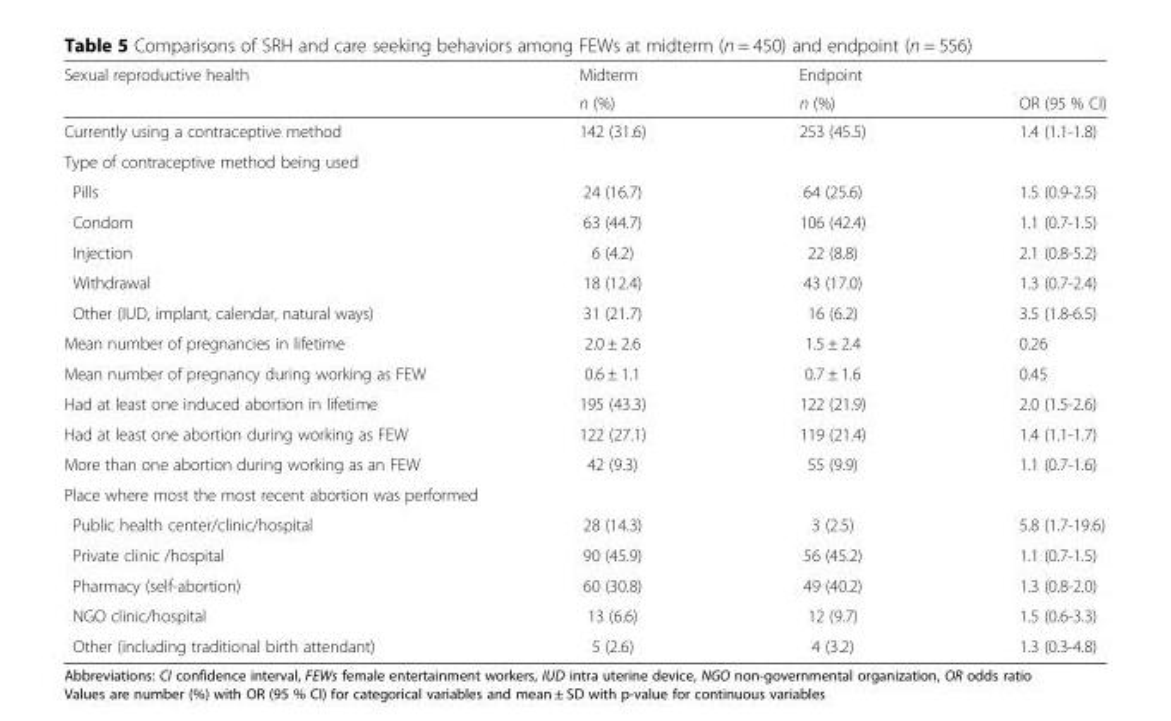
<table><thead><tr><td rowspan="2">Sexual reproductive health</td><td rowspan="2">Midterm n (%)</td><td rowspan="2">Endpoint n (%)</td><td rowspan="2">OR (95 % CI)</td></tr><tr></tr></thead><tbody><tr><td>Currently using a contraceptive method</td><td>142 (31.6)</td><td>253 (45.5)</td><td>1.4 (1.1-1.8)</td></tr><tr><td colspan="4">Type of contraceptive method being used</td></tr><tr><td>Pills</td><td>24 (16.7)</td><td>64 (25.6)</td><td>1.5 (0.9-2.5)</td></tr><tr><td>Condom</td><td>63 (44.7)</td><td>106 (42.4)</td><td>1.1 (0.7-1.5)</td></tr><tr><td>Injection</td><td>6 (4.2)</td><td>22 (8.8)</td><td>2.1 (0.8-5.2)</td></tr><tr><td>Withdrawal</td><td>18 (12.4)</td><td>43 (17.0)</td><td>1.3 (0.7-2.4)</td></tr><tr><td>Other (IUD, implant, calendar, natural ways)</td><td>31 (21.7)</td><td>16 (6.2)</td><td>3.5 (1.8-6.5)</td></tr><tr><td>Mean number of pregnancies in lifetime</td><td>2.0 ± 2.6</td><td>1.5 ± 2.4</td><td>0.26</td></tr><tr><td>Mean number of pregnancy during working as FEW</td><td>0.6 ± 1.1</td><td>0.7 ± 1.6</td><td>0.45</td></tr><tr><td>Had at least one induced abortion in lifetime</td><td>195 (43.3)</td><td>122 (21.9)</td><td>2.0 (1.5-2.6)</td></tr><tr><td>Had at least one abortion during working as FEW</td><td>122 (27.1)</td><td>119 (21.4)</td><td>1.4 (1.1-1.7)</td></tr><tr><td>More than one abortion during working as an FEW</td><td>42 (9.3)</td><td>55 (9.9)</td><td>1.1 (0.7-1.6)</td></tr><tr><td colspan="4">Place where most the most recent abortion was performed</td></tr><tr><td>Public health center/clinic/hospital</td><td>28 (14.3)</td><td>3 (2.5)</td><td>5.8 (1.7-19.6)</td></tr><tr><td>Private clinic /hospital</td><td>90 (45.9)</td><td>56 (45.2)</td><td>1.1 (0.7-1.5)</td></tr><tr><td>Pharmacy (self-abortion)</td><td>60 (30.8)</td><td>49 (40.2)</td><td>1.3 (0.8-2.0)</td></tr><tr><td>NGO clinic/hospital</td><td>13 (6.6)</td><td>12 (9.7)</td><td>1.5 (0.6-3.3)</td></tr><tr><td>Other (including traditional birth attendant)</td><td>5 (2.6)</td><td>4 (3.2)</td><td>1.3 (0.3-4.8)</td></tr></tbody></table>